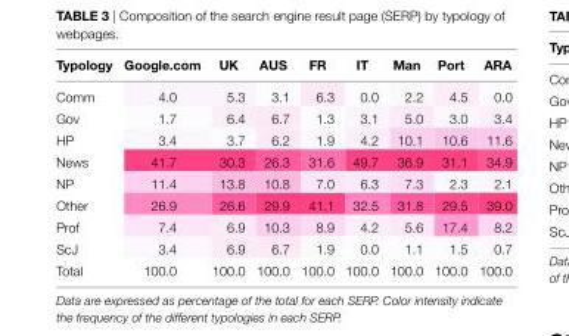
<table><thead><tr><td>Typology</td><td>google.com</td><td>UK</td><td>aUs</td><td>Fr</td><td>iT</td><td>Man</td><td>Port</td><td>ara</td></tr></thead><tbody><tr><td>Comm</td><td>4.0</td><td>5.3</td><td>3.1</td><td>6.3</td><td>0.0</td><td>2.2</td><td>4.5</td><td>0.0</td></tr><tr><td>Gov</td><td>1.7</td><td>6.4</td><td>6.7</td><td>1.3</td><td>3.1</td><td>5.0</td><td>3.0</td><td>3.4</td></tr><tr><td>HP</td><td>3.4</td><td>3.7</td><td>6.2</td><td>1.9</td><td>4.2</td><td>10.1</td><td>10.6</td><td>11.6</td></tr><tr><td>News</td><td>41.7</td><td>30.3</td><td>26.3</td><td>31.6</td><td>49.7</td><td>36.9</td><td>31.1</td><td>34.9</td></tr><tr><td>NP</td><td>11.4</td><td>13.8</td><td>10.8</td><td>7.0</td><td>6.3</td><td>7.3</td><td>2.3</td><td>2.1</td></tr><tr><td>Other</td><td>26.9</td><td>26.6</td><td>29.9</td><td>41.1</td><td>32.5</td><td>31.8</td><td>29.5</td><td>39.0</td></tr><tr><td>Prof</td><td>7.4</td><td>6.9</td><td>10.3</td><td>8.9</td><td>4.2</td><td>5.6</td><td>17.4</td><td>8.2</td></tr><tr><td>ScJ</td><td>3.4</td><td>6.9</td><td>6.7</td><td>1.9</td><td>0.0</td><td>1.1</td><td>1.5</td><td>0.7</td></tr><tr><td>Total</td><td>100.0</td><td>100.0</td><td>100.0</td><td>100.0</td><td>100.0</td><td>100.0</td><td>100.0</td><td>100.0</td></tr></tbody></table>